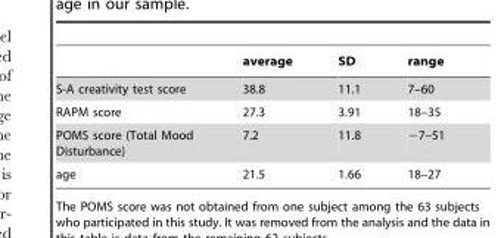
<table><thead><tr><td></td><td>average</td><td>SD</td><td>range</td></tr></thead><tbody><tr><td>S-A creativity test score</td><td>38.8</td><td>11.1</td><td>7–60</td></tr><tr><td>RAPM score</td><td>27.3</td><td>3.91</td><td>18–35</td></tr><tr><td>POMS score (Total Mood Disturbance)</td><td>7.2</td><td>11.8</td><td>−7–51</td></tr><tr><td>age</td><td>21.5</td><td>1.66</td><td>18–27</td></tr></tbody></table>